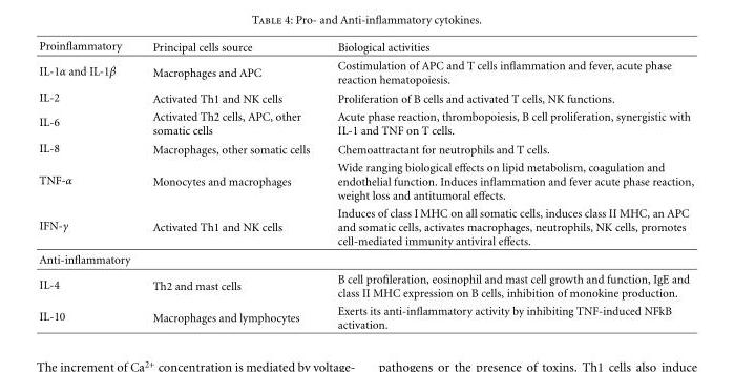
<table><thead><tr><td>Proinflammatory</td><td>Principal cells source</td><td>Biological activities</td></tr></thead><tbody><tr><td>IL-1α and IL-1β</td><td>Macrophages and APC</td><td>Costimulation of APC and T cells inflammation and fever, acute phase reaction hematopoiesis.</td></tr><tr><td>IL-2</td><td>Activated Th1 and NK cells</td><td>Proliferation of B cells and activated T cells, NK functions.</td></tr><tr><td>IL-6</td><td>Activated Th2 cells, APC, other somatic cells</td><td>Acute phase reaction, thrombopoiesis, B cell proliferation, synergistic with IL-1 and TNF on T cells.</td></tr><tr><td>IL-8</td><td>Macrophages, other somatic cells</td><td>Chemoattractant for neutrophils and T cells.</td></tr><tr><td>TNF-α</td><td>Monocytes and macrophages</td><td>Wide ranging biological effects on lipid metabolism, coagulation and endothelial function. Induces inflammation and fever acute phase reaction, weight loss and antitumoral effects.</td></tr><tr><td>IFN-γ</td><td>Activated Th1 and NK cells</td><td>Induces of class I MHC on all somatic cells, induces class II MHC, an APC and somatic cells, activates macrophages, neutrophils, NK cells, promotes cell-mediated immunity antiviral effects.</td></tr><tr><td colspan="3">Anti-inflammatory</td></tr><tr><td>IL-4</td><td>Th2 and mast cells</td><td>B cell profileration, eosinophil and mast cell growth and function, IgE and class II MHC expression on B cells, inhibition of monokine production.</td></tr><tr><td>IL-10</td><td>Macrophages and lymphocytes</td><td>Exerts its anti-inflammatory activity by inhibiting TNF-induced NFkB activation.</td></tr></tbody></table>